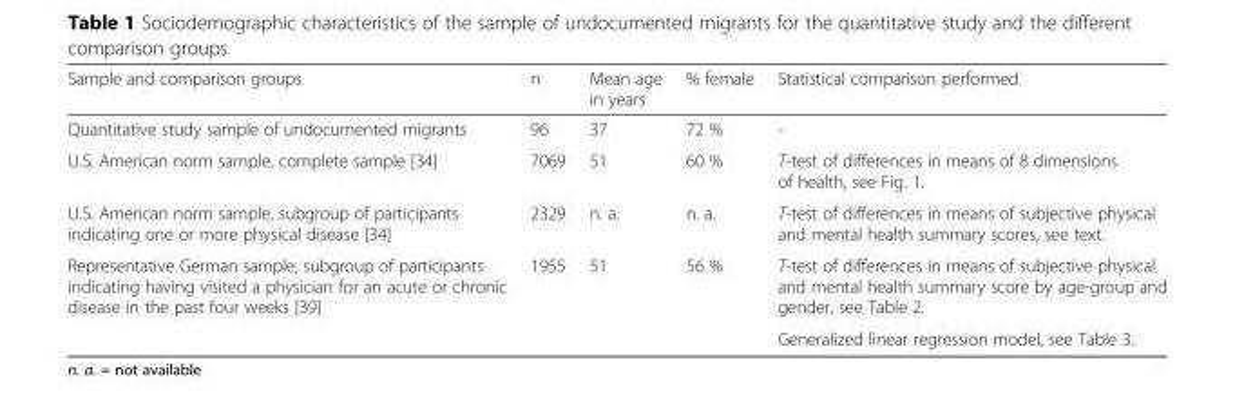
<table><thead><tr><td>Sample and comparison groups</td><td>n</td><td>Mean age in years</td><td>% female</td><td>Statistical comparison performed</td></tr></thead><tbody><tr><td>Quantitative study sample of undocumented migrants</td><td>96</td><td>37</td><td>72 %</td><td>-</td></tr><tr><td>U.S. American norm sample, complete sample [34]</td><td>7069</td><td>51</td><td>60 %</td><td>T-test of differences in means of 8 dimensions of health, see Fig. 1.</td></tr><tr><td>U.S. American norm sample, subgroup of participants indicating one or more physical disease [34]</td><td>2329</td><td>n. a.</td><td>n. a.</td><td>T-test of differences in means of subjective physical and mental health summary scores, see text.</td></tr><tr><td rowspan="2">Representative German sample, subgroup of participants indicating having visited a physician for an acute or chronic disease in the past four weeks [39]</td><td rowspan="2">1955</td><td rowspan="2">51</td><td rowspan="2">56 %</td><td>T-test of differences in means of subjective physical and mental health summary score by age-group and gender, see Table 2.</td></tr><tr><td>Generalized linear regression model, see Table 3.</td></tr></tbody></table>